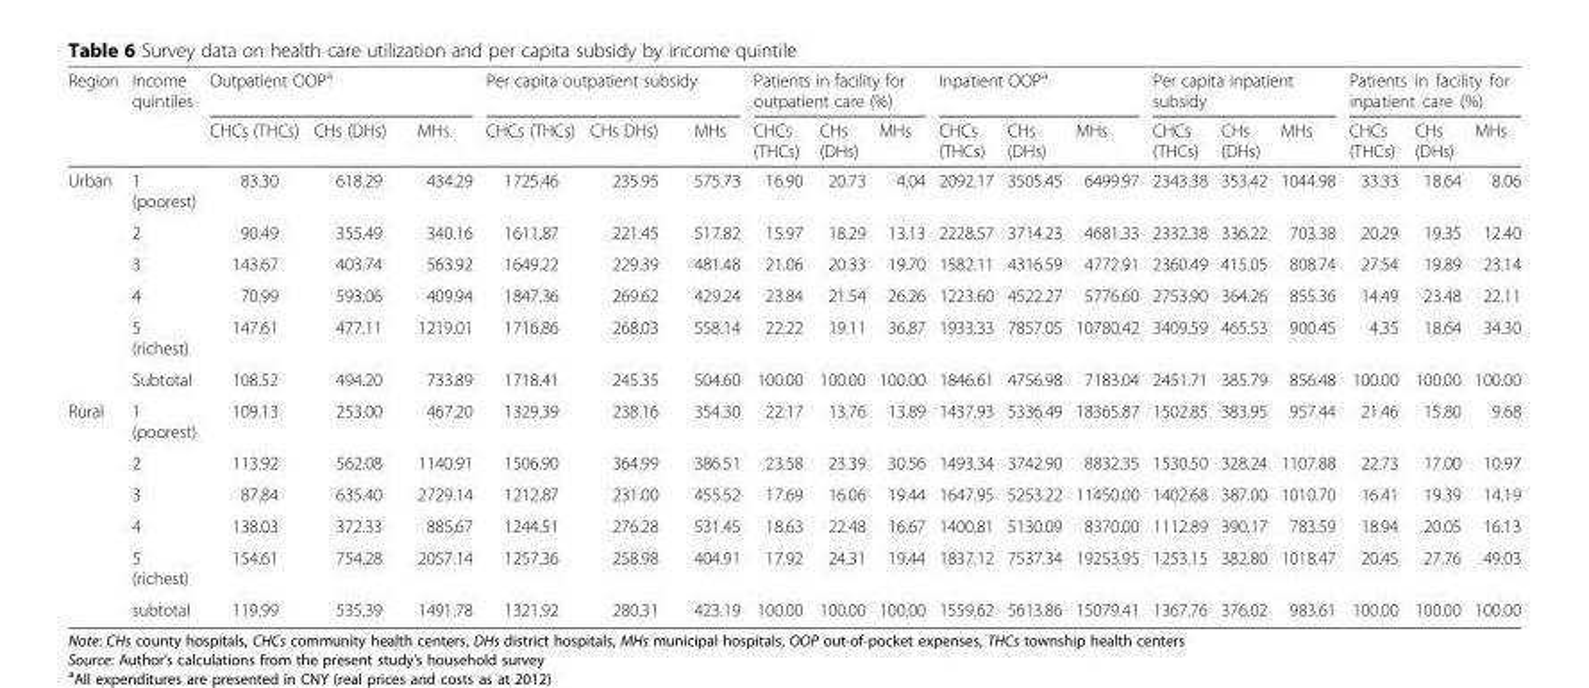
<table><thead><tr><td rowspan="2">Region</td><td rowspan="2">Income quintiles</td><td colspan="3">Outpatient OOP<sup>a</sup></td><td colspan="3">Per capita outpatient subsidy</td><td colspan="3">Patients in facility for outpatient care (%)</td><td colspan="3">Inpatient OOP<sup>a</sup></td><td colspan="3">Per capita inpatient subsidy</td><td colspan="3">Patients in facility for inpatient care (%)</td></tr><tr><td>CHCs (THCs)</td><td>CHs (DHs)</td><td>MHs</td><td>CHCs (THCs)</td><td>CHs DHs)</td><td>MHs</td><td>CHCs (THCs)</td><td>CHs (DHs)</td><td>MHs</td><td>CHCs (THCs)</td><td>CHs (DHs)</td><td>MHs</td><td>CHCs (THCs)</td><td>CHs (DHs)</td><td>MHs</td><td>CHCs (THCs)</td><td>CHs (DHs)</td><td>MHs</td></tr></thead><tbody><tr><td rowspan="6">Urban</td><td>1 (poorest)</td><td>83.30</td><td>618.29</td><td>434.29</td><td>1725.46</td><td>235.95</td><td>575.73</td><td>16.90</td><td>20.73</td><td>4.04</td><td>2092.17</td><td>3505.45</td><td>6499.97</td><td>2343.38</td><td>353.42</td><td>1044.98</td><td>33.33</td><td>18.64</td><td>8.06</td></tr><tr><td>2</td><td>90.49</td><td>355.49</td><td>340.16</td><td>1611.87</td><td>221.45</td><td>517.82</td><td>15.97</td><td>18.29</td><td>13.13</td><td>2228.57</td><td>3714.23</td><td>4681.33</td><td>2332.38</td><td>336.22</td><td>703.38</td><td>20.29</td><td>19.35</td><td>12.40</td></tr><tr><td>3</td><td>143.67</td><td>403.74</td><td>563.92</td><td>1649.22</td><td>229.39</td><td>481.48</td><td>21.06</td><td>20.33</td><td>19.70</td><td>1582.11</td><td>4316.59</td><td>4772.91</td><td>2360.49</td><td>415.05</td><td>808.74</td><td>27.54</td><td>19.89</td><td>23.14</td></tr><tr><td>4</td><td>70.99</td><td>593.06</td><td>409.94</td><td>1847.36</td><td>269.62</td><td>429.24</td><td>23.84</td><td>21.54</td><td>26.26</td><td>1223.60</td><td>4522.27</td><td>5776.60</td><td>2753.90</td><td>364.26</td><td>855.36</td><td>14.49</td><td>23.48</td><td>22.11</td></tr><tr><td>5 (richest)</td><td>147.61</td><td>477.11</td><td>1219.01</td><td>1716.86</td><td>268.03</td><td>558.14</td><td>22.22</td><td>19.11</td><td>36.87</td><td>1933.33</td><td>7857.05</td><td>10780.42</td><td>3409.59</td><td>465.53</td><td>900.45</td><td>4.35</td><td>18.64</td><td>34.30</td></tr><tr><td>Subtotal</td><td>108.52</td><td>494.20</td><td>733.89</td><td>1718.41</td><td>245.35</td><td>504.60</td><td>100.00</td><td>100.00</td><td>100.00</td><td>1846.61</td><td>4756.98</td><td>7183.04</td><td>2451.71</td><td>385.79</td><td>856.48</td><td>100.00</td><td>100.00</td><td>100.00</td></tr><tr><td rowspan="6">Rural</td><td>1 (poorest)</td><td>109.13</td><td>253.00</td><td>467.20</td><td>1329.39</td><td>238.16</td><td>354.30</td><td>22.17</td><td>13.76</td><td>13.89</td><td>1437.93</td><td>5336.49</td><td>18365.87</td><td>1502.85</td><td>383.95</td><td>957.44</td><td>21.46</td><td>15.80</td><td>9.68</td></tr><tr><td>2</td><td>113.92</td><td>562.08</td><td>1140.91</td><td>1506.90</td><td>364.99</td><td>386.51</td><td>23.58</td><td>23.39</td><td>30.56</td><td>1493.34</td><td>3742.90</td><td>8832.35</td><td>1530.50</td><td>328.24</td><td>1107.88</td><td>22.73</td><td>17.00</td><td>10.97</td></tr><tr><td>3</td><td>87.84</td><td>635.40</td><td>2729.14</td><td>1212.87</td><td>231.00</td><td>455.52</td><td>17.69</td><td>16.06</td><td>19.44</td><td>1647.95</td><td>5253.22</td><td>11450.00</td><td>1402.68</td><td>387.00</td><td>1010.70</td><td>16.41</td><td>19.39</td><td>14.19</td></tr><tr><td>4</td><td>138.03</td><td>372.33</td><td>885.67</td><td>1244.51</td><td>276.28</td><td>531.45</td><td>18.63</td><td>22.48</td><td>16.67</td><td>1400.81</td><td>5130.09</td><td>8370.00</td><td>1112.89</td><td>390.17</td><td>783.59</td><td>18.94</td><td>20.05</td><td>16.13</td></tr><tr><td>5 (richest)</td><td>154.61</td><td>754.28</td><td>2057.14</td><td>1257.36</td><td>258.98</td><td>404.91</td><td>17.92</td><td>24.31</td><td>19.44</td><td>1837.12</td><td>7537.34</td><td>19253.95</td><td>1253.15</td><td>382.80</td><td>1018.47</td><td>20.45</td><td>27.76</td><td>49.03</td></tr><tr><td>subtotal</td><td>119.99</td><td>535.39</td><td>1491.78</td><td>1321.92</td><td>280.31</td><td>423.19</td><td>100.00</td><td>100.00</td><td>100.00</td><td>1559.62</td><td>5613.86</td><td>15079.41</td><td>1367.76</td><td>376.02</td><td>983.61</td><td>100.00</td><td>100.00</td><td>100.00</td></tr></tbody></table>